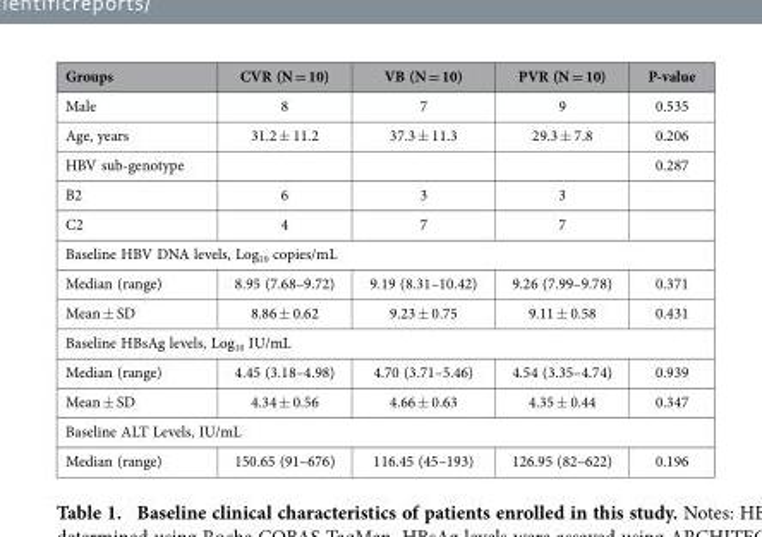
<table><thead><tr><td>Groups</td><td>CVR (N = 10)</td><td>VB (N = 10)</td><td>PVR (N = 10)</td><td>P-value</td></tr></thead><tbody><tr><td>Male</td><td>8</td><td>7</td><td>9</td><td>0.535</td></tr><tr><td>Age, years</td><td>31.2 ± 11.2</td><td>37.3 ± 11.3</td><td>29.3 ± 7.8</td><td>0.206</td></tr><tr><td>HBV sub-genotype</td><td></td><td></td><td></td><td>0.287</td></tr><tr><td>B2</td><td>6</td><td>3</td><td>3</td><td></td></tr><tr><td>C2</td><td>4</td><td>7</td><td>7</td><td></td></tr><tr><td colspan="5">Baseline HBV DNA levels, Log<sub>10</sub> copies/mL</td></tr><tr><td>Median (range)</td><td>8.95 (7.68–9.72)</td><td>9.19 (8.31–10.42)</td><td>9.26 (7.99–9.78)</td><td>0.371</td></tr><tr><td>Mean ± SD</td><td>8.86 ± 0.62</td><td>9.23 ± 0.75</td><td>9.11 ± 0.58</td><td>0.431</td></tr><tr><td colspan="5">Baseline HBsAg levels, Log<sub>10</sub> IU/mL</td></tr><tr><td>Median (range)</td><td>4.45 (3.18–4.98)</td><td>4.70 (3.71–5.46)</td><td>4.54 (3.35–4.74)</td><td>0.939</td></tr><tr><td>Mean ± SD</td><td>4.34 ± 0.56</td><td>4.66 ± 0.63</td><td>4.35 ± 0.44</td><td>0.347</td></tr><tr><td colspan="5">Baseline ALT Levels, IU/mL</td></tr><tr><td>Median (range)</td><td>150.65 (91–676)</td><td>116.45 (45–193)</td><td>126.95 (82–622)</td><td>0.196</td></tr></tbody></table>